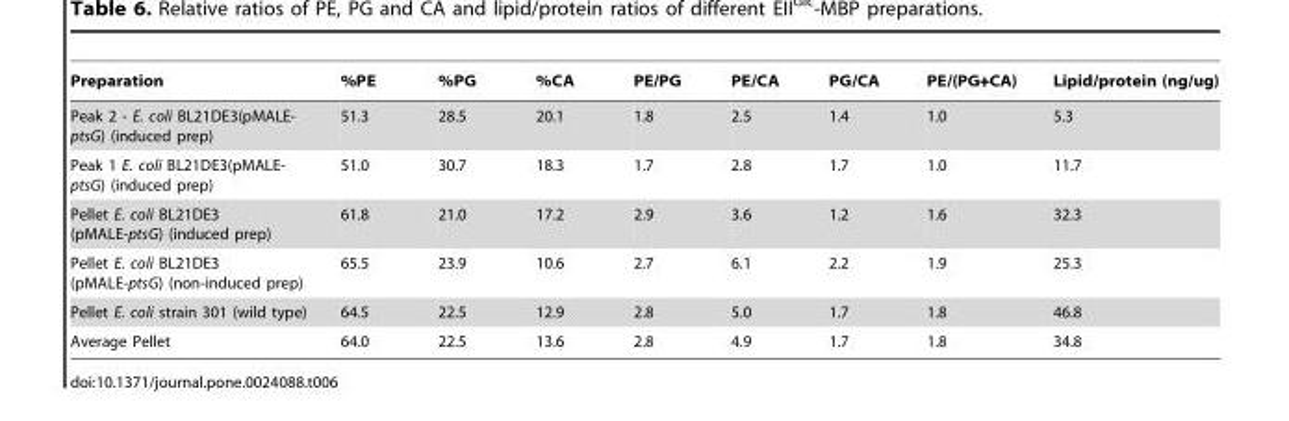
<table><thead><tr><td>Preparation</td><td>%PE</td><td>%PG</td><td>%CA</td><td>PE/PG</td><td>PE/CA</td><td>PG/CA</td><td>PE/(PG+CA)</td><td>Lipid/protein (ng/ug)</td></tr></thead><tbody><tr><td>Peak 2 - E. coli BL21DE3(pMALE- ptsG) (induced prep)</td><td>51.3</td><td>28.5</td><td>20.1</td><td>1.8</td><td>2.5</td><td>1.4</td><td>1.0</td><td>5.3</td></tr><tr><td>Peak 1 E. coli BL21DE3(pMALE- ptsG) (induced prep)</td><td>51.0</td><td>30.7</td><td>18.3</td><td>1.7</td><td>2.8</td><td>1.7</td><td>1.0</td><td>11.7</td></tr><tr><td>Pellet E. coli BL21DE3 (pMALE-ptsG) (induced prep)</td><td>61.8</td><td>21.0</td><td>17.2</td><td>2.9</td><td>3.6</td><td>1.2</td><td>1.6</td><td>32.3</td></tr><tr><td>Pellet E. coli BL21DE3 (pMALE-ptsG) (non-induced prep)</td><td>65.5</td><td>23.9</td><td>10.6</td><td>2.7</td><td>6.1</td><td>2.2</td><td>1.9</td><td>25.3</td></tr><tr><td>Pellet E. coli strain 301 (wild type)</td><td>64.5</td><td>22.5</td><td>12.9</td><td>2.8</td><td>5.0</td><td>1.7</td><td>1.8</td><td>46.8</td></tr><tr><td>Average Pellet</td><td>64.0</td><td>22.5</td><td>13.6</td><td>2.8</td><td>4.9</td><td>1.7</td><td>1.8</td><td>34.8</td></tr></tbody></table>